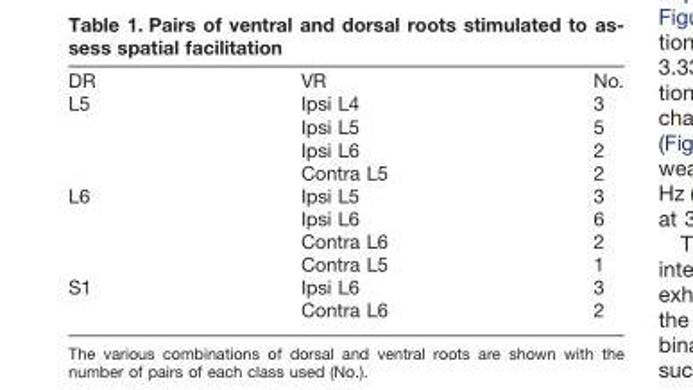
<table><thead><tr><td>DR</td><td>VR</td><td>No.</td></tr></thead><tbody><tr><td rowspan="4">L5</td><td>Ipsi L4</td><td>3</td></tr><tr><td>Ipsi L5</td><td>5</td></tr><tr><td>Ipsi L6</td><td>2</td></tr><tr><td>Contra L5</td><td>2</td></tr><tr><td rowspan="4">L6</td><td>Ipsi L5</td><td>3</td></tr><tr><td>Ipsi L6</td><td>6</td></tr><tr><td>Contra L6</td><td>2</td></tr><tr><td>Contra L5</td><td>1</td></tr><tr><td rowspan="2">S1</td><td>Ipsi L6</td><td>3</td></tr><tr><td>Contra L6</td><td>2</td></tr></tbody></table>